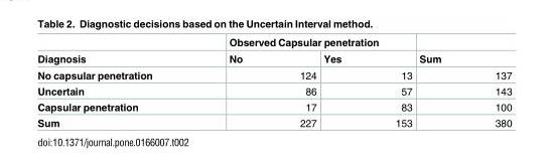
<table><thead><tr><td rowspan="2">Diagnosis</td><td colspan="2">Observed Capsular penetration</td><td rowspan="2">Sum</td></tr><tr><td>No</td><td>Yes</td></tr></thead><tbody><tr><td>No capsular penetration</td><td>124</td><td>13</td><td>137</td></tr><tr><td>Uncertain</td><td>86</td><td>57</td><td>143</td></tr><tr><td>Capsular penetration</td><td>17</td><td>83</td><td>100</td></tr><tr><td>Sum</td><td>227</td><td>153</td><td>380</td></tr></tbody></table>